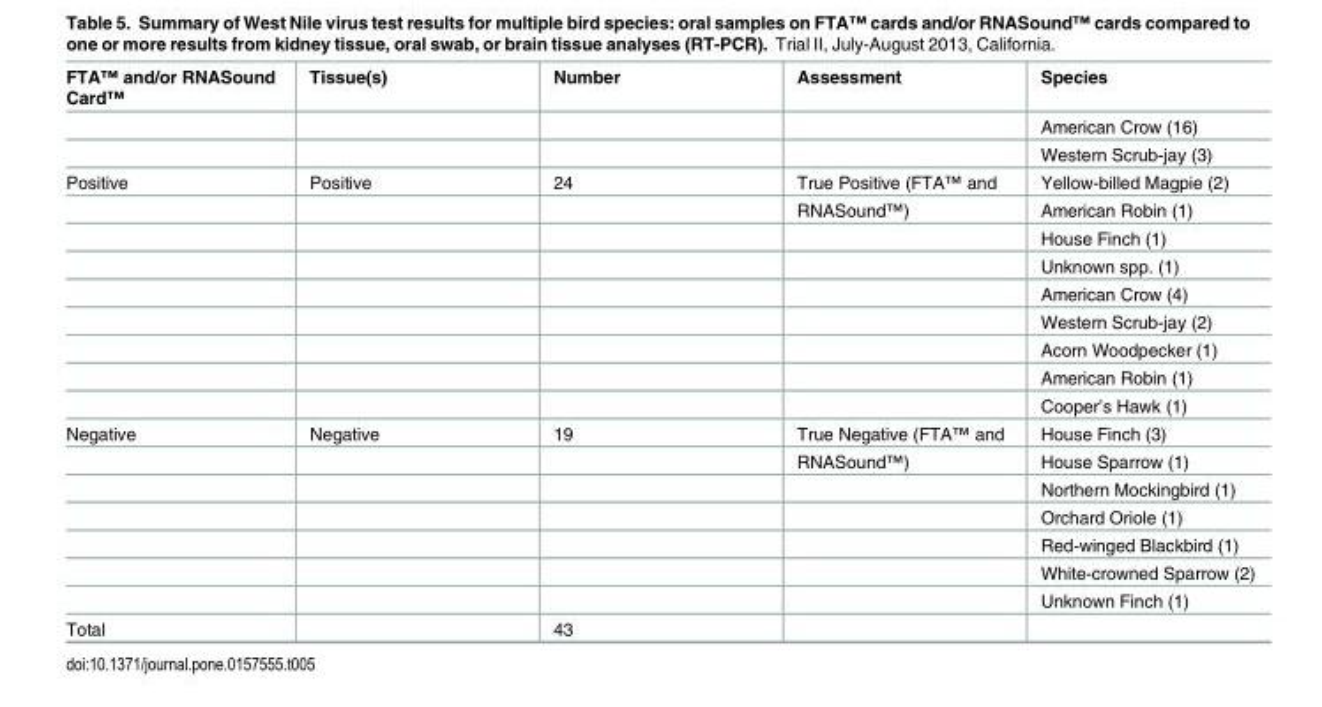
<table><thead><tr><td>FTA™ and/or RNASound Card™</td><td>Tissue(s)</td><td>Number</td><td>Assessment</td><td>Species</td></tr></thead><tbody><tr><td></td><td></td><td></td><td></td><td>American Crow (16)</td></tr><tr><td></td><td></td><td></td><td></td><td>Western Scrub-jay (3)</td></tr><tr><td rowspan="9">Positive</td><td>Positive</td><td>24</td><td>True Positive (FTA™ and</td><td>Yellow-billed Magpie (2)</td></tr><tr><td></td><td></td><td>RNASound™)</td><td>American Robin (1)</td></tr><tr><td></td><td></td><td></td><td>House Finch (1)</td></tr><tr><td></td><td></td><td></td><td>Unknown spp. (1)</td></tr><tr><td></td><td></td><td></td><td>American Crow (4)</td></tr><tr><td></td><td></td><td></td><td>Western Scrub-jay (2)</td></tr><tr><td></td><td></td><td></td><td>Acorn Woodpecker (1)</td></tr><tr><td></td><td></td><td></td><td>American Robin (1)</td></tr><tr><td></td><td></td><td></td><td>Cooper’s Hawk (1)</td></tr><tr><td rowspan="7">Negative</td><td>Negative</td><td>19</td><td>True Negative (FTA™ and</td><td>House Finch (3)</td></tr><tr><td></td><td></td><td>RNASound™)</td><td>House Sparrow (1)</td></tr><tr><td></td><td></td><td></td><td>Northern Mockingbird (1)</td></tr><tr><td></td><td></td><td></td><td>Orchard Oriole (1)</td></tr><tr><td></td><td></td><td></td><td>Red-winged Blackbird (1)</td></tr><tr><td></td><td></td><td></td><td>White-crowned Sparrow (2)</td></tr><tr><td></td><td></td><td></td><td>Unknown Finch (1)</td></tr><tr><td>Total</td><td></td><td>43</td><td></td><td></td></tr></tbody></table>